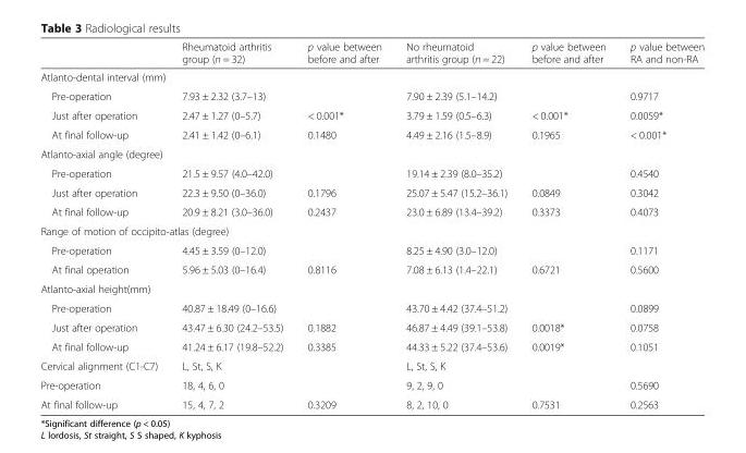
<table><thead><tr><td></td><td>Rheumatoid arthritis group (n = 32)</td><td>p value between before and after</td><td>No rheumatoid arthritis group (n = 22)</td><td>p value between before and after</td><td>p value between RA and non-RA</td></tr></thead><tbody><tr><td colspan="6">Atlanto-dental interval (mm)</td></tr><tr><td>Pre-operation</td><td>7.93 ± 2.32 (3.7–13)</td><td></td><td>7.90 ± 2.39 (5.1–14.2)</td><td></td><td>0.9717</td></tr><tr><td>Just after operation</td><td>2.47 ± 1.27 (0–5.7)</td><td>&lt; 0.001*</td><td>3.79 ± 1.59 (0.5–6.3)</td><td>&lt; 0.001*</td><td>0.0059*</td></tr><tr><td>At final follow-up</td><td>2.41 ± 1.42 (0–6.1)</td><td>0.1480</td><td>4.49 ± 2.16 (1.5–8.9)</td><td>0.1965</td><td>&lt; 0.001*</td></tr><tr><td colspan="6">Atlanto-axial angle (degree)</td></tr><tr><td>Pre-operation</td><td>21.5 ± 9.57 (4.0–42.0)</td><td></td><td>19.14 ± 2.39 (8.0–35.2)</td><td></td><td>0.4540</td></tr><tr><td>Just after operation</td><td>22.3 ± 9.50 (0–36.0)</td><td>0.1796</td><td>25.07 ± 5.47 (15.2–36.1)</td><td>0.0849</td><td>0.3042</td></tr><tr><td>At final follow-up</td><td>20.9 ± 8.21 (3.0–36.0)</td><td>0.2437</td><td>23.0 ± 6.89 (13.4–39.2)</td><td>0.3373</td><td>0.4073</td></tr><tr><td colspan="6">Range of motion of occipito-atlas (degree)</td></tr><tr><td>Pre-operation</td><td>4.45 ± 3.59 (0–12.0)</td><td></td><td>8.25 ± 4.90 (3.0–12.0)</td><td></td><td>0.1171</td></tr><tr><td>At final operation</td><td>5.96 ± 5.03 (0–16.4)</td><td>0.8116</td><td>7.08 ± 6.13 (1.4–22.1)</td><td>0.6721</td><td>0.5600</td></tr><tr><td colspan="6">Atlanto-axial height(mm)</td></tr><tr><td>Pre-operation</td><td>40.87 ± 18.49 (0–16.6)</td><td></td><td>43.70 ± 4.42 (37.4–51.2)</td><td></td><td>0.0899</td></tr><tr><td>Just after operation</td><td>43.47 ± 6.30 (24.2–53.5)</td><td>0.1882</td><td>46.87 ± 4.49 (39.1–53.8)</td><td>0.0018*</td><td>0.0758</td></tr><tr><td>At final follow-up</td><td>41.24 ± 6.17 (19.8–52.2)</td><td>0.3385</td><td>44.33 ± 5.22 (37.4–53.6)</td><td>0.0019*</td><td>0.1051</td></tr><tr><td>Cervical alignment (C1-C7)</td><td>L, St, S, K</td><td></td><td>L, St, S, K</td><td></td><td></td></tr><tr><td>Pre-operation</td><td>18, 4, 6, 0</td><td></td><td>9, 2, 9, 0</td><td></td><td>0.5690</td></tr><tr><td>At final follow-up</td><td>15, 4, 7, 2</td><td>0.3209</td><td>8, 2, 10, 0</td><td>0.7531</td><td>0.2563</td></tr></tbody></table>